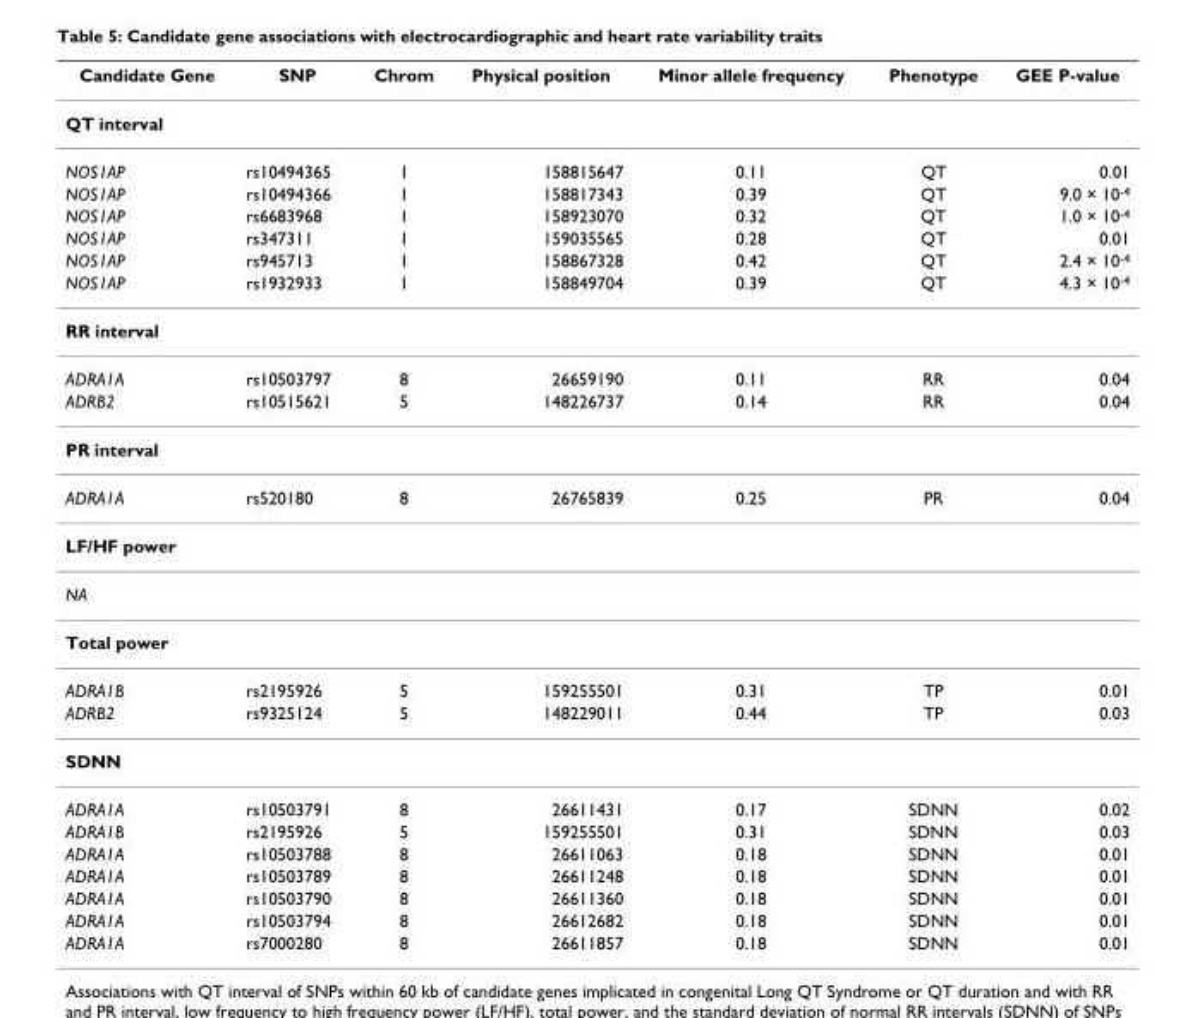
<table><thead><tr><td>Candidate Gene</td><td>SNP</td><td>Chrom</td><td>Physical position</td><td>Minor allele frequency</td><td>Phenotype</td><td>GEE P-value</td></tr></thead><tbody><tr><td colspan="7">QT interval</td></tr><tr><td>NOS1AP</td><td>rs10494365</td><td>1</td><td>158815647</td><td>0.11</td><td>QT</td><td>0.01</td></tr><tr><td>NOS1AP</td><td>rs10494366</td><td>1</td><td>158817343</td><td>0.39</td><td>QT</td><td>9.0 × 10<sup>-4</sup></td></tr><tr><td>NOS1AP</td><td>rs6683968</td><td>1</td><td>158923070</td><td>0.32</td><td>QT</td><td>1.0 × 10<sup>-4</sup></td></tr><tr><td>NOS1AP</td><td>rs347311</td><td>1</td><td>159035565</td><td>0.28</td><td>QT</td><td>0.01</td></tr><tr><td>NOS1AP</td><td>rs945713</td><td>1</td><td>158867328</td><td>0.42</td><td>QT</td><td>2.4 × 10<sup>-4</sup></td></tr><tr><td>NOS1AP</td><td>rs1932933</td><td>1</td><td>158849704</td><td>0.39</td><td>QT</td><td>4.3 × 10<sup>-4</sup></td></tr><tr><td colspan="7">RR interval</td></tr><tr><td>ADRA1A</td><td>rs10503797</td><td>8</td><td>26659190</td><td>0.11</td><td>RR</td><td>0.04</td></tr><tr><td>ADRB2</td><td>rs10515621</td><td>5</td><td>148226737</td><td>0.14</td><td>RR</td><td>0.04</td></tr><tr><td colspan="7">PR interval</td></tr><tr><td>ADRA1A</td><td>rs520180</td><td>8</td><td>26765839</td><td>0.25</td><td>PR</td><td>0.04</td></tr><tr><td colspan="7">LF/HF power</td></tr><tr><td colspan="7">NA</td></tr><tr><td colspan="7">Total power</td></tr><tr><td>ADRA1B</td><td>rs2195926</td><td>5</td><td>159255501</td><td>0.31</td><td>TP</td><td>0.01</td></tr><tr><td>ADRB2</td><td>rs9325124</td><td>5</td><td>148229011</td><td>0.44</td><td>TP</td><td>0.03</td></tr><tr><td colspan="7">SDNN</td></tr><tr><td>ADRA1A</td><td>rs10503791</td><td>8</td><td>26611431</td><td>0.17</td><td>SDNN</td><td>0.02</td></tr><tr><td>ADRA1B</td><td>rs2195926</td><td>5</td><td>159255501</td><td>0.31</td><td>SDNN</td><td>0.03</td></tr><tr><td>ADRA1A</td><td>rs10503788</td><td>8</td><td>26611063</td><td>0.18</td><td>SDNN</td><td>0.01</td></tr><tr><td>ADRA1A</td><td>rs10503789</td><td>8</td><td>26611248</td><td>0.18</td><td>SDNN</td><td>0.01</td></tr><tr><td>ADRA1A</td><td>rs10503790</td><td>8</td><td>26611360</td><td>0.18</td><td>SDNN</td><td>0.01</td></tr><tr><td>ADRA1A</td><td>rs10503794</td><td>8</td><td>26612682</td><td>0.18</td><td>SDNN</td><td>0.01</td></tr><tr><td>ADRA1A</td><td>rs7000280</td><td>8</td><td>26611857</td><td>0.18</td><td>SDNN</td><td>0.01</td></tr></tbody></table>